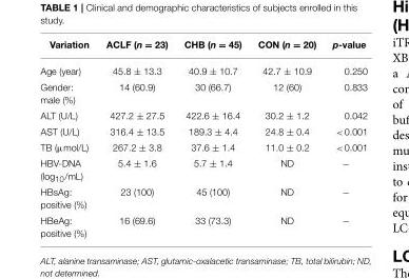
<table><thead><tr><td>Variation</td><td>ACLF (n = 23)</td><td>CHB (n = 45)</td><td>CON (n = 20)</td><td>p-value</td></tr></thead><tbody><tr><td>Age (year)</td><td>45.8 ± 13.3</td><td>40.9 ± 10.7</td><td>42.7 ± 10.9</td><td>0.250</td></tr><tr><td>Gender: male (%)</td><td>14 (60.9)</td><td>30 (66.7)</td><td>12 (60)</td><td>0.833</td></tr><tr><td>ALT (U/L)</td><td>427.2 ± 27.5</td><td>422.6 ± 16.4</td><td>30.2 ± 1.2</td><td>0.042</td></tr><tr><td>AST (U/L)</td><td>316.4 ± 13.5</td><td>189.3 ± 4.4</td><td>24.8 ± 0.4</td><td>&lt;0.001</td></tr><tr><td>TB (µmol/L)</td><td>267.2 ± 3.8</td><td>37.6 ± 1.4</td><td>11.0 ± 0.2</td><td>&lt;0.001</td></tr><tr><td>HBV-DNA (log<sub>10</sub>/mL)</td><td>5.4 ± 1.6</td><td>5.7 ± 1.4</td><td>ND</td><td>−</td></tr><tr><td>HBsAg: positive (%)</td><td>23 (100)</td><td>45 (100)</td><td>ND</td><td>−</td></tr><tr><td>HBeAg: positive (%)</td><td>16 (69.6)</td><td>33 (73.3)</td><td>ND</td><td>−</td></tr></tbody></table>